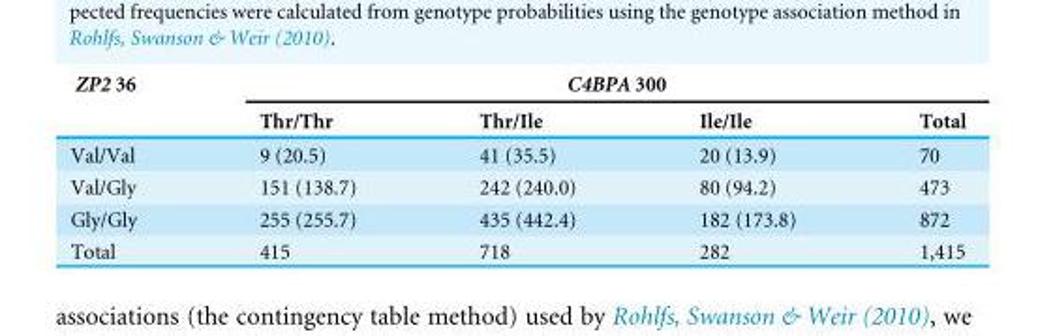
<table><thead><tr><td rowspan="2">ZP2 36</td><td colspan="4">C4BPA 300</td></tr><tr><td>Thr/Thr</td><td>Thr/Ile</td><td>Ile/Ile</td><td>Total</td></tr></thead><tbody><tr><td>Val/Val</td><td>9 (20.5)</td><td>41 (35.5)</td><td>20 (13.9)</td><td>70</td></tr><tr><td>Val/Gly</td><td>151 (138.7)</td><td>242 (240.0)</td><td>80 (94.2)</td><td>473</td></tr><tr><td>Gly/Gly</td><td>255 (255.7)</td><td>435 (442.4)</td><td>182 (173.8)</td><td>872</td></tr><tr><td>Total</td><td>415</td><td>718</td><td>282</td><td>1,415</td></tr></tbody></table>